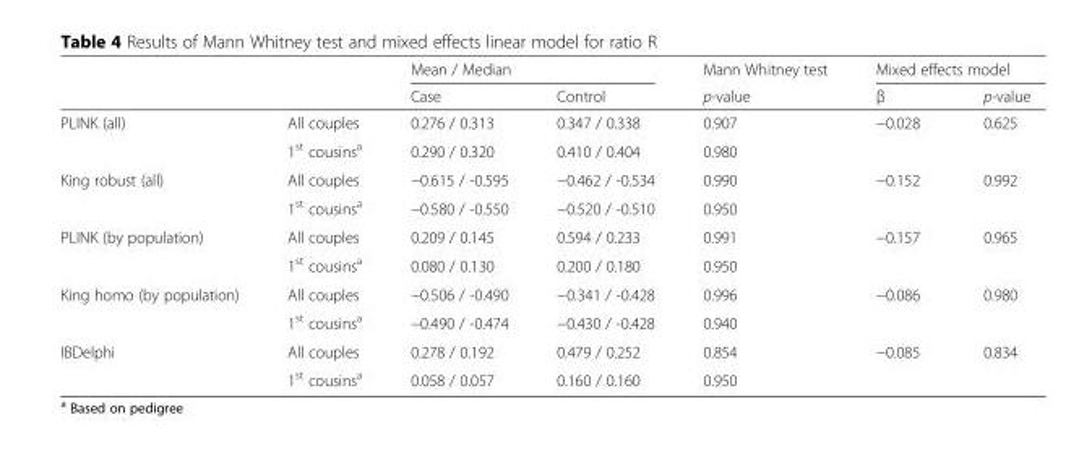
<table><thead><tr><td rowspan="2"></td><td rowspan="2"></td><td colspan="2">Mean / Median</td><td rowspan="2">Mann Whitney test p-value</td><td colspan="2">Mixed effects model</td></tr><tr><td>Case</td><td>Control</td><td>β</td><td>p-value</td></tr></thead><tbody><tr><td rowspan="2">PLINK (all)</td><td>All couples</td><td>0.276 / 0.313</td><td>0.347 / 0.338</td><td>0.907</td><td>−0.028</td><td>0.625</td></tr><tr><td>1<sup>st</sup> cousins<sup>a</sup></td><td>0.290 / 0.320</td><td>0.410 / 0.404</td><td>0.980</td><td></td><td></td></tr><tr><td rowspan="2">King robust (all)</td><td>All couples</td><td>−0.615 / -0.595</td><td>−0.462 / -0.534</td><td>0.990</td><td>−0.152</td><td>0.992</td></tr><tr><td>1<sup>st</sup> cousins<sup>a</sup></td><td>−0.580 / -0.550</td><td>−0.520 / -0.510</td><td>0.950</td><td></td><td></td></tr><tr><td rowspan="2">PLINK (by population)</td><td>All couples</td><td>0.209 / 0.145</td><td>0.594 / 0.233</td><td>0.991</td><td>−0.157</td><td>0.965</td></tr><tr><td>1<sup>st</sup> cousins<sup>a</sup></td><td>0.080 / 0.130</td><td>0.200 / 0.180</td><td>0.950</td><td></td><td></td></tr><tr><td rowspan="2">King homo (by population)</td><td>All couples</td><td>−0.506 / -0.490</td><td>−0.341 / -0.428</td><td>0.996</td><td>−0.086</td><td>0.980</td></tr><tr><td>1<sup>st</sup> cousins<sup>a</sup></td><td>−0.490 / -0.474</td><td>−0.430 / -0.428</td><td>0.940</td><td></td><td></td></tr><tr><td rowspan="2">IBDelphi</td><td>All couples</td><td>0.278 / 0.192</td><td>0.479 / 0.252</td><td>0.854</td><td>−0.085</td><td>0.834</td></tr><tr><td>1<sup>st</sup> cousins<sup>a</sup></td><td>0.058 / 0.057</td><td>0.160 / 0.160</td><td>0.950</td><td></td><td></td></tr></tbody></table>